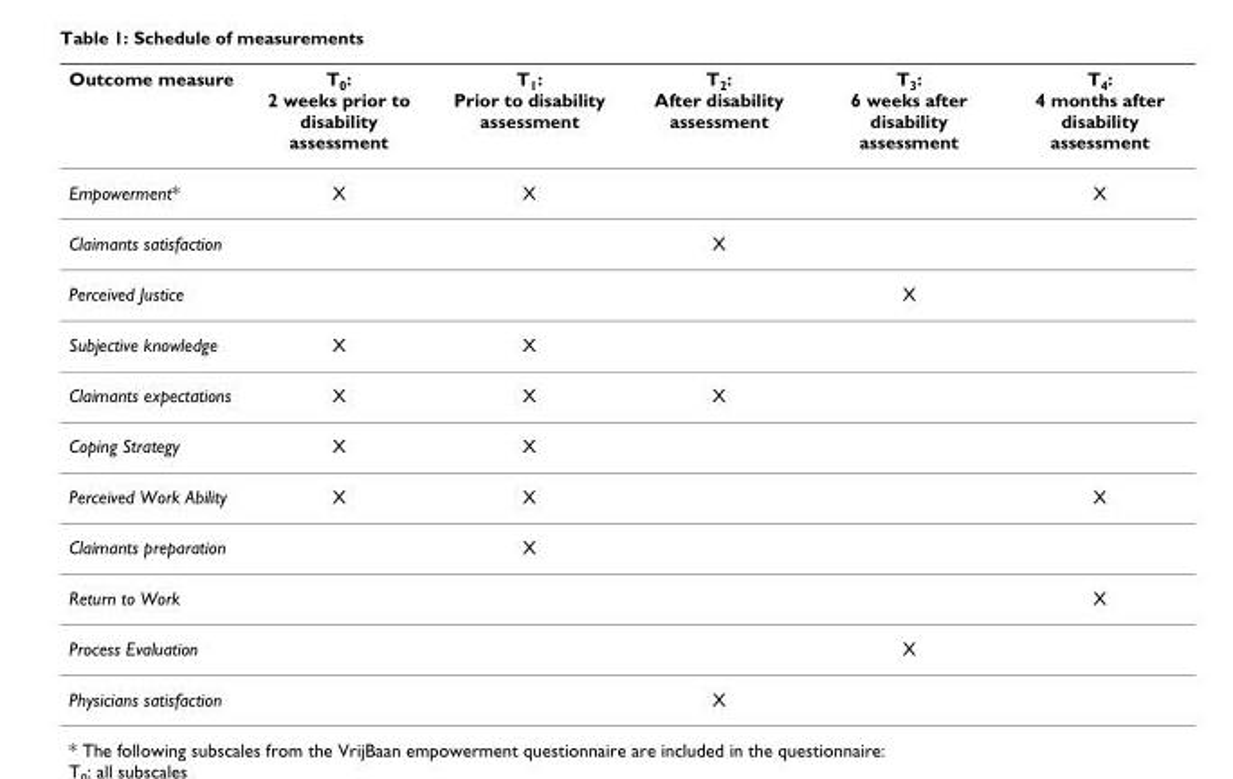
<table><thead><tr><td>Outcome measure</td><td>T<sub>0</sub>: 2 weeks prior to disability assessment</td><td>T<sub>1</sub>: Prior to disability assessment</td><td>T<sub>2</sub>: After disability assessment</td><td>T<sub>3</sub>: 6 weeks after disability assessment</td><td>T<sub>4</sub>: 4 months after disability assessment</td></tr></thead><tbody><tr><td>Empowerment*</td><td>X</td><td>X</td><td></td><td></td><td>X</td></tr><tr><td>Claimants satisfaction</td><td></td><td></td><td>X</td><td></td><td></td></tr><tr><td>Perceived Justice</td><td></td><td></td><td></td><td>X</td><td></td></tr><tr><td>Subjective knowledge</td><td>X</td><td>X</td><td></td><td></td><td></td></tr><tr><td>Claimants expectations</td><td>X</td><td>X</td><td>X</td><td></td><td></td></tr><tr><td>Coping Strategy</td><td>X</td><td>X</td><td></td><td></td><td></td></tr><tr><td>Perceived Work Ability</td><td>X</td><td>X</td><td></td><td></td><td>X</td></tr><tr><td>Claimants preparation</td><td></td><td>X</td><td></td><td></td><td></td></tr><tr><td>Return to Work</td><td></td><td></td><td></td><td></td><td>X</td></tr><tr><td>Process Evaluation</td><td></td><td></td><td></td><td>X</td><td></td></tr><tr><td>Physicians satisfaction</td><td></td><td></td><td>X</td><td></td><td></td></tr></tbody></table>